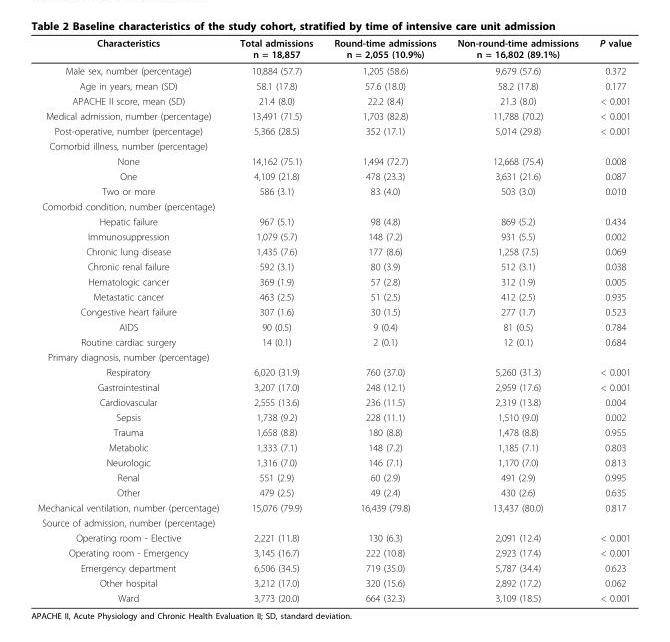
<table><thead><tr><td>Characteristics</td><td>Total admissions n = 18,857</td><td>Round-time admissions n = 2,055 (10.9%)</td><td>Non-round-time admissions n = 16,802 (89.1%)</td><td>P value</td></tr></thead><tbody><tr><td>Male sex, number (percentage)</td><td>10,884 (57.7)</td><td>1,205 (58.6)</td><td>9,679 (57.6)</td><td>0.372</td></tr><tr><td>Age in years, mean (SD)</td><td>58.1 (17.8)</td><td>57.6 (18.0)</td><td>58.2 (17.8)</td><td>0.177</td></tr><tr><td>APACHE II score, mean (SD)</td><td>21.4 (8.0)</td><td>22.2 (8.4)</td><td>21.3 (8.0)</td><td>&lt; 0.001</td></tr><tr><td>Medical admission, number (percentage)</td><td>13,491 (71.5)</td><td>1,703 (82.8)</td><td>11,788 (70.2)</td><td>&lt; 0.001</td></tr><tr><td>Post-operative, number (percentage)</td><td>5,366 (28.5)</td><td>352 (17.1)</td><td>5,014 (29.8)</td><td>&lt; 0.001</td></tr><tr><td colspan="5">Comorbid illness, number (percentage)</td></tr><tr><td>None</td><td>14,162 (75.1)</td><td>1,494 (72.7)</td><td>12,668 (75.4)</td><td>0.008</td></tr><tr><td>One</td><td>4,109 (21.8)</td><td>478 (23.3)</td><td>3,631 (21.6)</td><td>0.087</td></tr><tr><td>Two or more</td><td>586 (3.1)</td><td>83 (4.0)</td><td>503 (3.0)</td><td>0.010</td></tr><tr><td colspan="5">Comorbid condition, number (percentage)</td></tr><tr><td>Hepatic failure</td><td>967 (5.1)</td><td>98 (4.8)</td><td>869 (5.2)</td><td>0.434</td></tr><tr><td>Immunosuppression</td><td>1,079 (5.7)</td><td>148 (7.2)</td><td>931 (5.5)</td><td>0.002</td></tr><tr><td>Chronic lung disease</td><td>1,435 (7.6)</td><td>177 (8.6)</td><td>1,258 (7.5)</td><td>0.069</td></tr><tr><td>Chronic renal failure</td><td>592 (3.1)</td><td>80 (3.9)</td><td>512 (3.1)</td><td>0.038</td></tr><tr><td>Hematologic cancer</td><td>369 (1.9)</td><td>57 (2.8)</td><td>312 (1.9)</td><td>0.005</td></tr><tr><td>Metastatic cancer</td><td>463 (2.5)</td><td>51 (2.5)</td><td>412 (2.5)</td><td>0.935</td></tr><tr><td>Congestive heart failure</td><td>307 (1.6)</td><td>30 (1.5)</td><td>277 (1.7)</td><td>0.523</td></tr><tr><td>AIDS</td><td>90 (0.5)</td><td>9 (0.4)</td><td>81 (0.5)</td><td>0.784</td></tr><tr><td>Routine cardiac surgery</td><td>14 (0.1)</td><td>2 (0.1)</td><td>12 (0.1)</td><td>0.684</td></tr><tr><td colspan="5">Primary diagnosis, number (percentage)</td></tr><tr><td>Respiratory</td><td>6,020 (31.9)</td><td>760 (37.0)</td><td>5,260 (31.3)</td><td>&lt; 0.001</td></tr><tr><td>Gastrointestinal</td><td>3,207 (17.0)</td><td>248 (12.1)</td><td>2,959 (17.6)</td><td>&lt; 0.001</td></tr><tr><td>Cardiovascular</td><td>2,555 (13.6)</td><td>236 (11.5)</td><td>2,319 (13.8)</td><td>0.004</td></tr><tr><td>Sepsis</td><td>1,738 (9.2)</td><td>228 (11.1)</td><td>1,510 (9.0)</td><td>0.002</td></tr><tr><td>Trauma</td><td>1,658 (8.8)</td><td>180 (8.8)</td><td>1,478 (8.8)</td><td>0.955</td></tr><tr><td>Metabolic</td><td>1,333 (7.1)</td><td>148 (7.2)</td><td>1,185 (7.1)</td><td>0.803</td></tr><tr><td>Neurologic</td><td>1,316 (7.0)</td><td>146 (7.1)</td><td>1,170 (7.0)</td><td>0.813</td></tr><tr><td>Renal</td><td>551 (2.9)</td><td>60 (2.9)</td><td>491 (2.9)</td><td>0.995</td></tr><tr><td>Other</td><td>479 (2.5)</td><td>49 (2.4)</td><td>430 (2.6)</td><td>0.635</td></tr><tr><td>Mechanical ventilation, number (percentage)</td><td>15,076 (79.9)</td><td>16,439 (79.8)</td><td>13,437 (80.0)</td><td>0.817</td></tr><tr><td colspan="5">Source of admission, number (percentage)</td></tr><tr><td>Operating room - Elective</td><td>2,221 (11.8)</td><td>130 (6.3)</td><td>2,091 (12.4)</td><td>&lt; 0.001</td></tr><tr><td>Operating room - Emergency</td><td>3,145 (16.7)</td><td>222 (10.8)</td><td>2,923 (17.4)</td><td>&lt; 0.001</td></tr><tr><td>Emergency department</td><td>6,506 (34.5)</td><td>719 (35.0)</td><td>5,787 (34.4)</td><td>0.623</td></tr><tr><td>Other hospital</td><td>3,212 (17.0)</td><td>320 (15.6)</td><td>2,892 (17.2)</td><td>0.062</td></tr><tr><td>Ward</td><td>3,773 (20.0)</td><td>664 (32.3)</td><td>3,109 (18.5)</td><td>&lt; 0.001</td></tr></tbody></table>